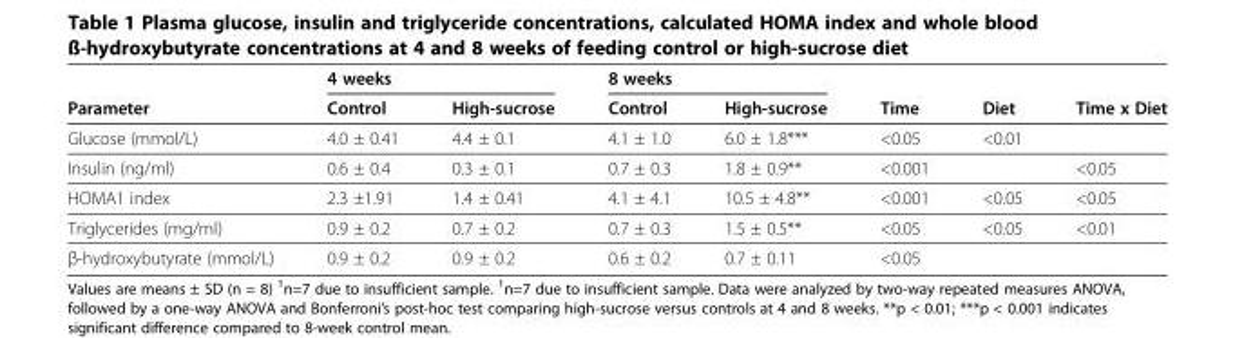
<table><thead><tr><td rowspan="2">Parameter</td><td colspan="2">4 weeks</td><td colspan="2">8 weeks</td><td rowspan="2">Time</td><td rowspan="2">Diet</td><td rowspan="2">Time x Diet</td></tr><tr><td>Control</td><td>High-sucrose</td><td>Control</td><td>High-sucrose</td></tr></thead><tbody><tr><td>Glucose (mmol/L)</td><td>4.0 ± 0.41</td><td>4.4 ± 0.1</td><td>4.1 ± 1.0</td><td>6.0 ± 1.8***</td><td>&lt;0.05</td><td>&lt;0.01</td><td></td></tr><tr><td>Insulin (ng/ml)</td><td>0.6 ± 0.4</td><td>0.3 ± 0.1</td><td>0.7 ± 0.3</td><td>1.8 ± 0.9**</td><td>&lt;0.001</td><td></td><td>&lt;0.05</td></tr><tr><td>HOMA1 index</td><td>2.3 ±1.91</td><td>1.4 ± 0.41</td><td>4.1 ± 4.1</td><td>10.5 ± 4.8**</td><td>&lt;0.001</td><td>&lt;0.05</td><td>&lt;0.05</td></tr><tr><td>Triglycerides (mg/ml)</td><td>0.9 ± 0.2</td><td>0.7 ± 0.2</td><td>0.7 ± 0.3</td><td>1.5 ± 0.5**</td><td>&lt;0.05</td><td>&lt;0.05</td><td>&lt;0.01</td></tr><tr><td>β-hydroxybutyrate (mmol/L)</td><td>0.9 ± 0.2</td><td>0.9 ± 0.2</td><td>0.6 ± 0.2</td><td>0.7 ± 0.11</td><td>&lt;0.05</td><td></td><td></td></tr></tbody></table>